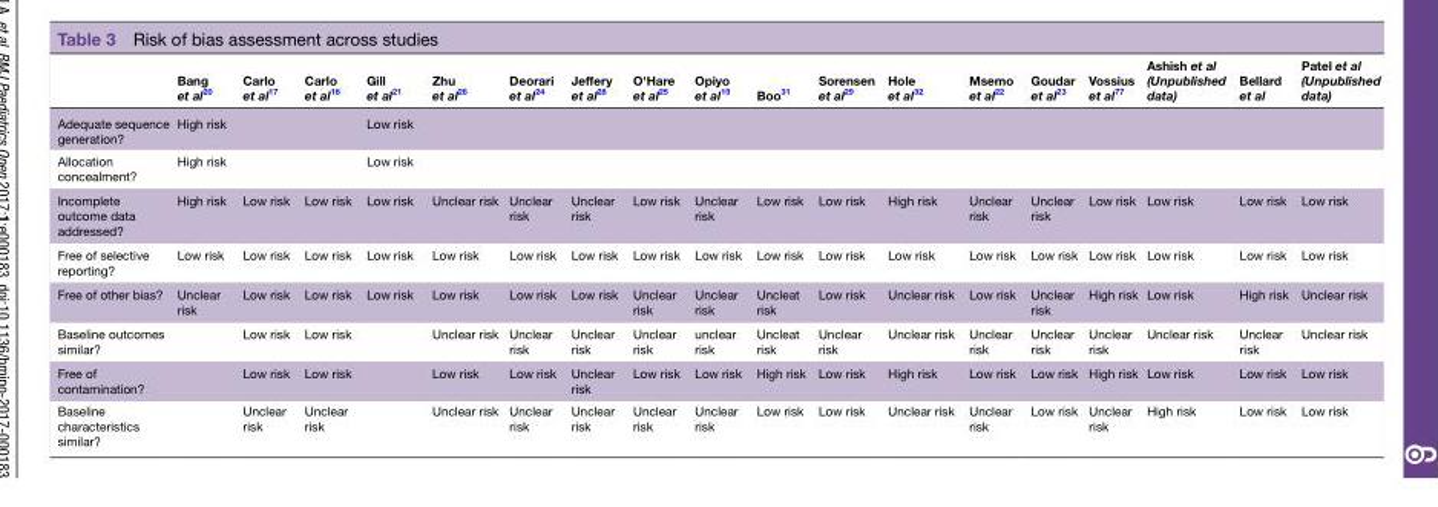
<table><thead><tr><td></td><td>Bang et al<sup>20</sup></td><td>Carlo et al<sup>17</sup></td><td>Carlo et al<sup>18</sup></td><td>Gill et al<sup>21</sup></td><td>Zhu et al<sup>26</sup></td><td>Deorari et al<sup>24</sup></td><td>Jeffery et al<sup>28</sup></td><td>O&#x27;Hare et al<sup>25</sup></td><td>Opiyo et al<sup>19</sup></td><td>Boo<sup>31</sup></td><td>Sorensen et al<sup>29</sup></td><td>Hole et al<sup>32</sup></td><td>Msemo et al<sup>22</sup></td><td>Goudar et al<sup>23</sup></td><td>Vossius et al<sup>77</sup></td><td>Ashish et al (Unpublished data)</td><td>Bellard et al</td><td>Patel et al (Unpublished data)</td></tr></thead><tbody><tr><td>Adequate sequence generation?</td><td>High risk</td><td></td><td></td><td>Low risk</td><td></td><td></td><td></td><td></td><td></td><td></td><td></td><td></td><td></td><td></td><td></td><td></td><td></td><td></td></tr><tr><td>Allocation concealment?</td><td>High risk</td><td></td><td></td><td>Low risk</td><td></td><td></td><td></td><td></td><td></td><td></td><td></td><td></td><td></td><td></td><td></td><td></td><td></td><td></td></tr><tr><td>Incomplete outcome data addressed?</td><td>High risk</td><td>Low risk</td><td>Low risk</td><td>Low risk</td><td>Unclear risk</td><td>Unclear risk</td><td>Unclear risk</td><td>Low risk</td><td>Unclear risk</td><td>Low risk</td><td>Low risk</td><td>High risk</td><td>Unclear risk</td><td>Unclear risk</td><td>Low risk</td><td>Low risk</td><td>Low risk</td><td>Low risk</td></tr><tr><td>Free of selective reporting?</td><td>Low risk</td><td>Low risk</td><td>Low risk</td><td>Low risk</td><td>Low risk</td><td>Low risk</td><td>Low risk</td><td>Low risk</td><td>Low risk</td><td>Low risk</td><td>Low risk</td><td>Low risk</td><td>Low risk</td><td>Low risk</td><td>Low risk</td><td>Low risk</td><td>Low risk</td><td>Low risk</td></tr><tr><td>Free of other bias?</td><td>Unclear risk</td><td>Low risk</td><td>Low risk</td><td>Low risk</td><td>Low risk</td><td>Low risk</td><td>Low risk</td><td>Unclear risk</td><td>Unclear risk</td><td>Uncleat risk</td><td>Low risk</td><td>Unclear risk</td><td>Low risk</td><td>Unclear risk</td><td>High risk</td><td>Low risk</td><td>High risk</td><td>Unclear risk</td></tr><tr><td>Baseline outcomes similar?</td><td></td><td>Low risk</td><td>Low risk</td><td></td><td>Unclear risk</td><td>Unclear risk</td><td>Unclear risk</td><td>Unclear risk</td><td>unclear risk</td><td>Uncleat risk</td><td>Unclear risk</td><td>Unclear risk</td><td>Unclear risk</td><td>Unclear risk</td><td>Unclear risk</td><td>Unclear risk</td><td>Unclear risk</td><td>Unclear risk</td></tr><tr><td>Free of contamination?</td><td></td><td>Low risk</td><td>Low risk</td><td></td><td>Low risk</td><td>Low risk</td><td>Unclear risk</td><td>Low risk</td><td>Low risk</td><td>High risk</td><td>Low risk</td><td>High risk</td><td>Low risk</td><td>Low risk</td><td>High risk</td><td>Low risk</td><td>Low risk</td><td>Low risk</td></tr><tr><td>Baseline characteristics similar?</td><td></td><td>Unclear risk</td><td>Unclear risk</td><td></td><td>Unclear risk</td><td>Unclear risk</td><td>Unclear risk</td><td>Unclear risk</td><td>Unclear risk</td><td>Low risk</td><td>Low risk</td><td>Unclear risk</td><td>Unclear risk</td><td>Low risk</td><td>Unclear risk</td><td>High risk</td><td>Low risk</td><td>Low risk</td></tr></tbody></table>